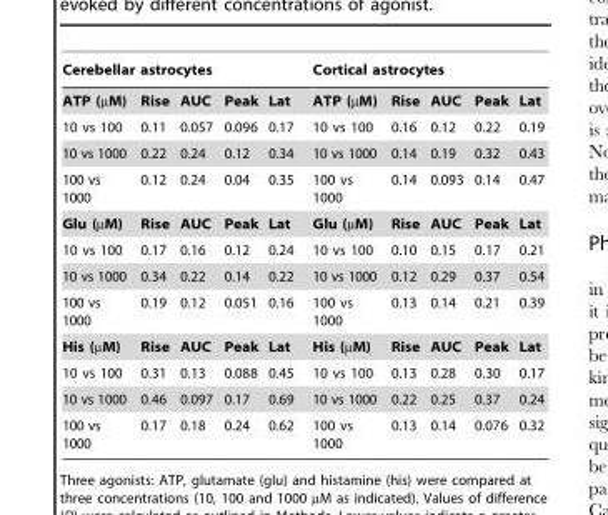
<table><thead><tr><td colspan="5">Cerebellar astrocytes</td><td colspan="5">Cortical astrocytes</td></tr><tr><td>ATP (µM)</td><td>Rise</td><td>AUC</td><td>Peak</td><td>Lat</td><td>ATP (µM)</td><td>Rise</td><td>AUC</td><td>Peak</td><td>Lat</td></tr></thead><tbody><tr><td>10 vs 100</td><td>0.11</td><td>0.057</td><td>0.096</td><td>0.17</td><td>10 vs 100</td><td>0.16</td><td>0.12</td><td>0.22</td><td>0.19</td></tr><tr><td>10 vs 1000</td><td>0.22</td><td>0.24</td><td>0.12</td><td>0.34</td><td>10 vs 1000</td><td>0.14</td><td>0.19</td><td>0.32</td><td>0.43</td></tr><tr><td>100 vs 1000</td><td>0.12</td><td>0.24</td><td>0.04</td><td>0.35</td><td>100 vs 1000</td><td>0.14</td><td>0.093</td><td>0.14</td><td>0.47</td></tr><tr><td>Glu (µM)</td><td>Rise</td><td>AUC</td><td>Peak</td><td>Lat</td><td>Glu (µM)</td><td>Rise</td><td>AUC</td><td>Peak</td><td>Lat</td></tr><tr><td>10 vs 100</td><td>0.17</td><td>0.16</td><td>0.12</td><td>0.24</td><td>10 vs 100</td><td>0.10</td><td>0.15</td><td>0.17</td><td>0.21</td></tr><tr><td>10 vs 1000</td><td>0.34</td><td>0.22</td><td>0.14</td><td>0.22</td><td>10 vs 1000</td><td>0.12</td><td>0.29</td><td>0.37</td><td>0.54</td></tr><tr><td>100 vs 1000</td><td>0.19</td><td>0.12</td><td>0.051</td><td>0.16</td><td>100 vs 1000</td><td>0.13</td><td>0.14</td><td>0.21</td><td>0.39</td></tr><tr><td>His (µM)</td><td>Rise</td><td>AUC</td><td>Peak</td><td>Lat</td><td>His (µM)</td><td>Rise</td><td>AUC</td><td>Peak</td><td>Lat</td></tr><tr><td>10 vs 100</td><td>0.31</td><td>0.13</td><td>0.088</td><td>0.45</td><td>10 vs 100</td><td>0.13</td><td>0.28</td><td>0.30</td><td>0.17</td></tr><tr><td>10 vs 1000</td><td>0.46</td><td>0.097</td><td>0.17</td><td>0.69</td><td>10 vs 1000</td><td>0.22</td><td>0.25</td><td>0.37</td><td>0.24</td></tr><tr><td>100 vs 1000</td><td>0.17</td><td>0.18</td><td>0.24</td><td>0.62</td><td>100 vs 1000</td><td>0.13</td><td>0.14</td><td>0.076</td><td>0.32</td></tr></tbody></table>